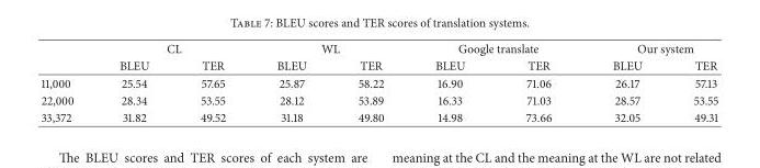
<table><thead><tr><td rowspan="2"></td><td colspan="2">CL</td><td colspan="2">WL</td><td colspan="2">Google translate</td><td colspan="2">Our system</td></tr><tr><td>BLEU</td><td>TER</td><td>BLEU</td><td>TER</td><td>BLEU</td><td>TER</td><td>BLEU</td><td>TER</td></tr></thead><tbody><tr><td>11,000</td><td>25.54</td><td>57.65</td><td>25.87</td><td>58.22</td><td>16.90</td><td>71.06</td><td>26.17</td><td>57.13</td></tr><tr><td>22,000</td><td>28.34</td><td>53.55</td><td>28.12</td><td>53.89</td><td>16.33</td><td>71.03</td><td>28.57</td><td>53.55</td></tr><tr><td>33,372</td><td>31.82</td><td>49.52</td><td>31.18</td><td>49.80</td><td>14.98</td><td>73.66</td><td>32.05</td><td>49.31</td></tr></tbody></table>